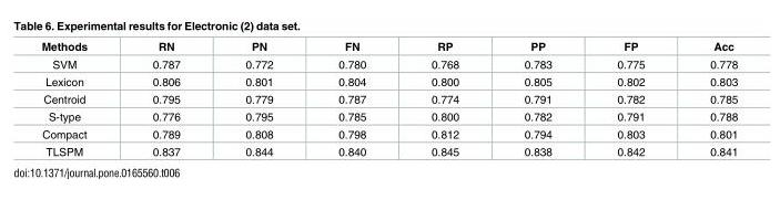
<table><thead><tr><td>Methods</td><td>RN</td><td>PN</td><td>FN</td><td>RP</td><td>PP</td><td>FP</td><td>Acc</td></tr></thead><tbody><tr><td>SVM</td><td>0.787</td><td>0.772</td><td>0.780</td><td>0.768</td><td>0.783</td><td>0.775</td><td>0.778</td></tr><tr><td>Lexicon</td><td>0.806</td><td>0.801</td><td>0.804</td><td>0.800</td><td>0.805</td><td>0.802</td><td>0.803</td></tr><tr><td>Centroid</td><td>0.795</td><td>0.779</td><td>0.787</td><td>0.774</td><td>0.791</td><td>0.782</td><td>0.785</td></tr><tr><td>S-type</td><td>0.776</td><td>0.795</td><td>0.785</td><td>0.800</td><td>0.782</td><td>0.791</td><td>0.788</td></tr><tr><td>Compact</td><td>0.789</td><td>0.808</td><td>0.798</td><td>0.812</td><td>0.794</td><td>0.803</td><td>0.801</td></tr><tr><td>TLSPM</td><td>0.837</td><td>0.844</td><td>0.840</td><td>0.845</td><td>0.838</td><td>0.842</td><td>0.841</td></tr></tbody></table>